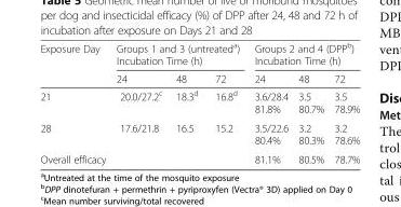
<table><thead><tr><td rowspan="2">Exposure Day</td><td colspan="3">Groups 1 and 3 (untreated<sup>a</sup>) Incubation Time (h)</td><td colspan="3">Groups 2 and 4 (DPP<sup>b</sup>) Incubation Time (h)</td></tr><tr><td>24</td><td>48</td><td>72</td><td>24</td><td>48</td><td>72</td></tr></thead><tbody><tr><td>21</td><td>20.0/27.2<sup>c</sup></td><td>18.3<sup>d</sup></td><td>16.8<sup>d</sup></td><td>3.6/28.4 81.8%</td><td>3.5 80.7%</td><td>3.5 78.9%</td></tr><tr><td>28</td><td>17.6/21.8</td><td>16.5</td><td>15.2</td><td>3.5/22.6 80.4%</td><td>3.2 80.3%</td><td>3.2 78.6%</td></tr><tr><td>Overall efficacy</td><td></td><td></td><td></td><td>81.1%</td><td>80.5%</td><td>78.7%</td></tr></tbody></table>